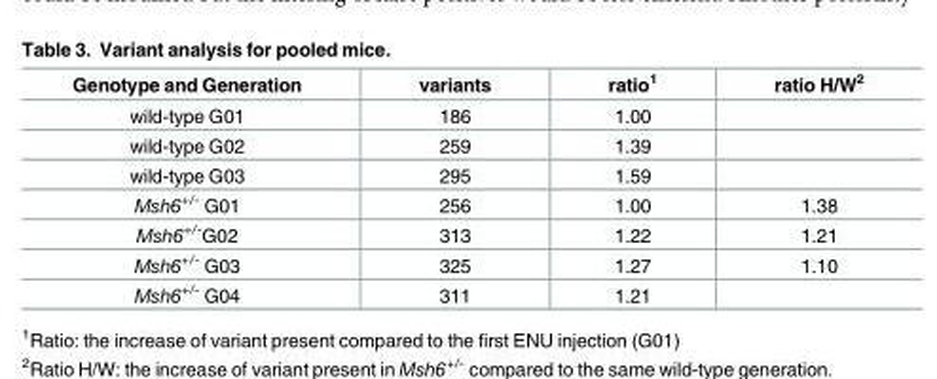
<table><thead><tr><td>Genotype and Generation</td><td>variants</td><td>ratio<sup>1</sup></td><td>ratio H/W<sup>2</sup></td></tr></thead><tbody><tr><td>wild-type G01</td><td>186</td><td>1.00</td><td></td></tr><tr><td>wild-type G02</td><td>259</td><td>1.39</td><td></td></tr><tr><td>wild-type G03</td><td>295</td><td>1.59</td><td></td></tr><tr><td>Msh6<sup>+/-</sup> G01</td><td>256</td><td>1.00</td><td>1.38</td></tr><tr><td>Msh6<sup>+/-</sup>G02</td><td>313</td><td>1.22</td><td>1.21</td></tr><tr><td>Msh6<sup>+/-</sup> G03</td><td>325</td><td>1.27</td><td>1.10</td></tr><tr><td>Msh6<sup>+/-</sup> G04</td><td>311</td><td>1.21</td><td></td></tr></tbody></table>